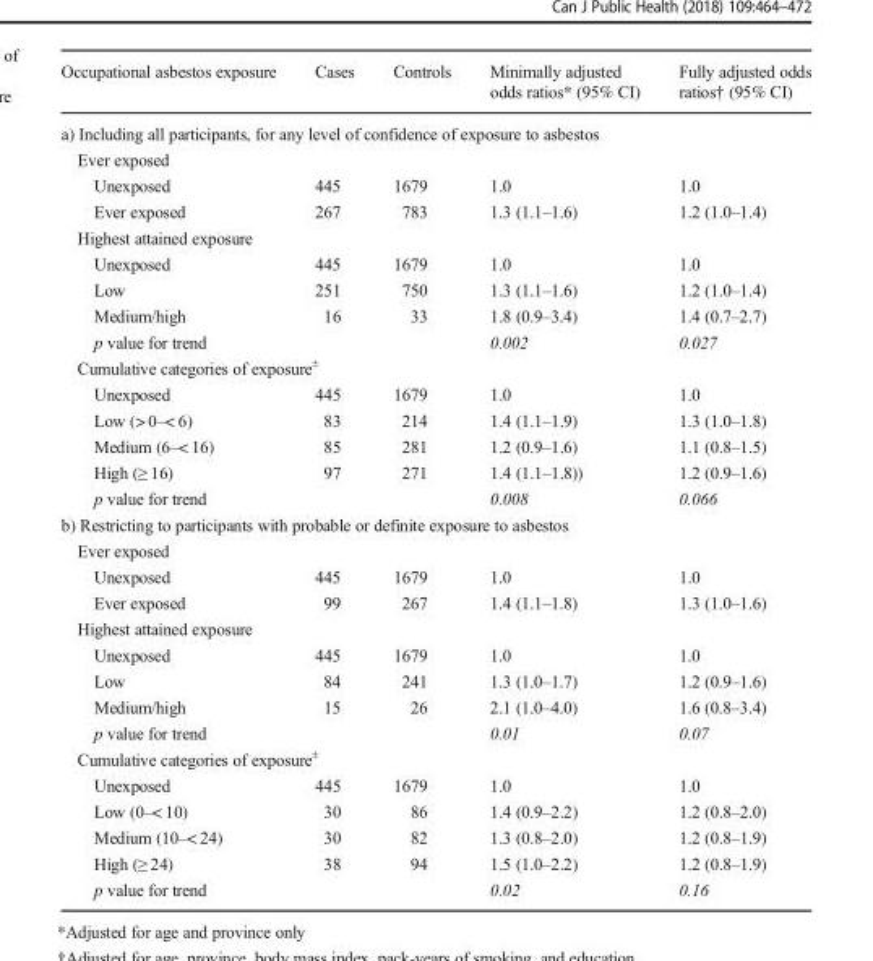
<table><thead><tr><td>Occupational asbestos exposure</td><td>Cases</td><td>Controls</td><td>Minimally adjusted odds ratios* (95% CI)</td><td>Fully adjusted odds ratios† (95% CI)</td></tr></thead><tbody><tr><td colspan="5">a) Including all participants, for any level of confidence of exposure to asbestos</td></tr><tr><td colspan="5">Ever exposed</td></tr><tr><td>Unexposed</td><td>445</td><td>1679</td><td>1.0</td><td>1.0</td></tr><tr><td>Ever exposed</td><td>267</td><td>783</td><td>1.3 (1.1–1.6)</td><td>1.2 (1.0–1.4)</td></tr><tr><td colspan="5">Highest attained exposure</td></tr><tr><td>Unexposed</td><td>445</td><td>1679</td><td>1.0</td><td>1.0</td></tr><tr><td>Low</td><td>251</td><td>750</td><td>1.3 (1.1–1.6)</td><td>1.2 (1.0–1.4)</td></tr><tr><td>Medium/high</td><td>16</td><td>33</td><td>1.8 (0.9–3.4)</td><td>1.4 (0.7–2.7)</td></tr><tr><td>p value for trend</td><td></td><td></td><td>0.002</td><td>0.027</td></tr><tr><td colspan="5">Cumulative categories of exposure<sup>±</sup></td></tr><tr><td>Unexposed</td><td>445</td><td>1679</td><td>1.0</td><td>1.0</td></tr><tr><td>Low (&gt; 0–&lt; 6)</td><td>83</td><td>214</td><td>1.4 (1.1–1.9)</td><td>1.3 (1.0–1.8)</td></tr><tr><td>Medium (6–&lt; 16)</td><td>85</td><td>281</td><td>1.2 (0.9–1.6)</td><td>1.1 (0.8–1.5)</td></tr><tr><td>High (≥ 16)</td><td>97</td><td>271</td><td>1.4 (1.1–1.8))</td><td>1.2 (0.9–1.6)</td></tr><tr><td>p value for trend</td><td></td><td></td><td>0.008</td><td>0.066</td></tr><tr><td colspan="5">b) Restricting to participants with probable or definite exposure to asbestos</td></tr><tr><td colspan="5">Ever exposed</td></tr><tr><td>Unexposed</td><td>445</td><td>1679</td><td>1.0</td><td>1.0</td></tr><tr><td>Ever exposed</td><td>99</td><td>267</td><td>1.4 (1.1–1.8)</td><td>1.3 (1.0–1.6)</td></tr><tr><td colspan="5">Highest attained exposure</td></tr><tr><td>Unexposed</td><td>445</td><td>1679</td><td>1.0</td><td>1.0</td></tr><tr><td>Low</td><td>84</td><td>241</td><td>1.3 (1.0–1.7)</td><td>1.2 (0.9–1.6)</td></tr><tr><td>Medium/high</td><td>15</td><td>26</td><td>2.1 (1.0–4.0)</td><td>1.6 (0.8–3.4)</td></tr><tr><td>p value for trend</td><td></td><td></td><td>0.01</td><td>0.07</td></tr><tr><td colspan="5">Cumulative categories of exposure<sup>±</sup></td></tr><tr><td>Unexposed</td><td>445</td><td>1679</td><td>1.0</td><td>1.0</td></tr><tr><td>Low (0–&lt; 10)</td><td>30</td><td>86</td><td>1.4 (0.9–2.2)</td><td>1.2 (0.8–2.0)</td></tr><tr><td>Medium (10–&lt; 24)</td><td>30</td><td>82</td><td>1.3 (0.8–2.0)</td><td>1.2 (0.8–1.9)</td></tr><tr><td>High (≥ 24)</td><td>38</td><td>94</td><td>1.5 (1.0–2.2)</td><td>1.2 (0.8–1.9)</td></tr><tr><td>p value for trend</td><td></td><td></td><td>0.02</td><td>0.16</td></tr></tbody></table>